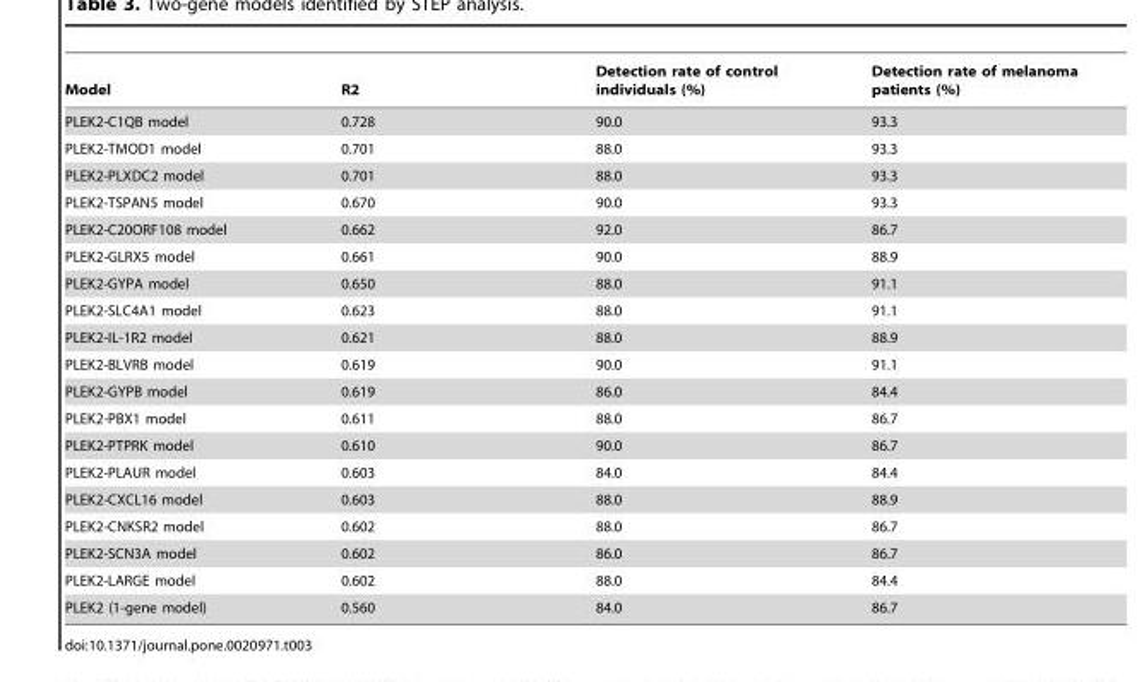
<table><thead><tr><td>Model</td><td>R2</td><td>Detection rate of control individuals (%)</td><td>Detection rate of melanoma patients (%)</td></tr></thead><tbody><tr><td>PLEK2-C1QB model</td><td>0.728</td><td>90.0</td><td>93.3</td></tr><tr><td>PLEK2-TMOD1 model</td><td>0.701</td><td>88.0</td><td>93.3</td></tr><tr><td>PLEK2-PLXDC2 model</td><td>0.701</td><td>88.0</td><td>93.3</td></tr><tr><td>PLEK2-TSPAN5 model</td><td>0.670</td><td>90.0</td><td>93.3</td></tr><tr><td>PLEK2-C20ORF108 model</td><td>0.662</td><td>92.0</td><td>86.7</td></tr><tr><td>PLEK2-GLRX5 model</td><td>0.661</td><td>90.0</td><td>88.9</td></tr><tr><td>PLEK2-GYPA model</td><td>0.650</td><td>88.0</td><td>91.1</td></tr><tr><td>PLEK2-SLC4A1 model</td><td>0.623</td><td>88.0</td><td>91.1</td></tr><tr><td>PLEK2-IL-1R2 model</td><td>0.621</td><td>88.0</td><td>88.9</td></tr><tr><td>PLEK2-BLVRB model</td><td>0.619</td><td>90.0</td><td>91.1</td></tr><tr><td>PLEK2-GYPB model</td><td>0.619</td><td>86.0</td><td>84.4</td></tr><tr><td>PLEK2-PBX1 model</td><td>0.611</td><td>88.0</td><td>86.7</td></tr><tr><td>PLEK2-PTPRK model</td><td>0.610</td><td>90.0</td><td>86.7</td></tr><tr><td>PLEK2-PLAUR model</td><td>0.603</td><td>84.0</td><td>84.4</td></tr><tr><td>PLEK2-CXCL16 model</td><td>0.603</td><td>88.0</td><td>88.9</td></tr><tr><td>PLEK2-CNKSR2 model</td><td>0.602</td><td>88.0</td><td>86.7</td></tr><tr><td>PLEK2-SCN3A model</td><td>0.602</td><td>86.0</td><td>86.7</td></tr><tr><td>PLEK2-LARGE model</td><td>0.602</td><td>88.0</td><td>84.4</td></tr><tr><td>PLEK2 (1-gene model)</td><td>0.560</td><td>84.0</td><td>86.7</td></tr></tbody></table>